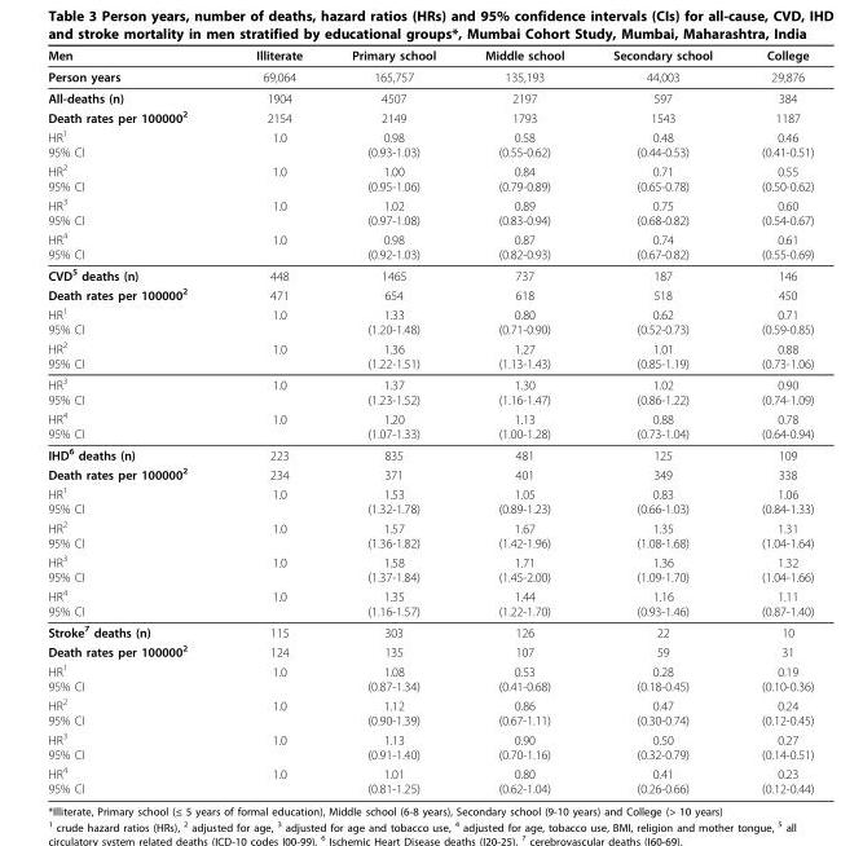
<table><thead><tr><td>Men</td><td>Illiterate</td><td>Primary school</td><td>Middle school</td><td>Secondary school</td><td>College</td></tr></thead><tbody><tr><td>Person years</td><td>69,064</td><td>165,757</td><td>135,193</td><td>44,003</td><td>29,876</td></tr><tr><td>All-deaths (n)</td><td>1904</td><td>4507</td><td>2197</td><td>597</td><td>384</td></tr><tr><td>Death rates per 100000<sup>2</sup></td><td>2154</td><td>2149</td><td>1793</td><td>1543</td><td>1187</td></tr><tr><td>HR<sup>1</sup> 95% CI</td><td>1.0</td><td>0.98 (0.93-1.03)</td><td>0.58 (0.55-0.62)</td><td>0.48 (0.44-0.53)</td><td>0.46 (0.41-0.51)</td></tr><tr><td>HR<sup>2</sup> 95% CI</td><td>1.0</td><td>1.00 (0.95-1.06)</td><td>0.84 (0.79-0.89)</td><td>0.71 (0.65-0.78)</td><td>0.55 (0.50-0.62)</td></tr><tr><td>HR<sup>3</sup> 95% CI</td><td>1.0</td><td>1.02 (0.97-1.08)</td><td>0.89 (0.83-0.94)</td><td>0.75 (0.68-0.82)</td><td>0.60 (0.54-0.67)</td></tr><tr><td>HR<sup>4</sup> 95% CI</td><td>1.0</td><td>0.98 (0.92-1.03)</td><td>0.87 (0.82-0.93)</td><td>0.74 (0.67-0.82)</td><td>0.61 (0.55-0.69)</td></tr><tr><td>CVD<sup>5</sup> deaths (n)</td><td>448</td><td>1465</td><td>737</td><td>187</td><td>146</td></tr><tr><td>Death rates per 100000<sup>2</sup></td><td>471</td><td>654</td><td>618</td><td>518</td><td>450</td></tr><tr><td>HR<sup>1</sup> 95% CI</td><td>1.0</td><td>1.33 (1.20-1.48)</td><td>0.80 (0.71-0.90)</td><td>0.62 (0.52-0.73)</td><td>0.71 (0.59-0.85)</td></tr><tr><td>HR<sup>2</sup> 95% CI</td><td>1.0</td><td>1.36 (1.22-1.51)</td><td>1.27 (1.13-1.43)</td><td>1.01 (0.85-1.19)</td><td>0.88 (0.73-1.06)</td></tr><tr><td>HR<sup>3</sup> 95% CI</td><td>1.0</td><td>1.37 (1.23-1.52)</td><td>1.30 (1.16-1.47)</td><td>1.02 (0.86-1.22)</td><td>0.90 (0.74-1.09)</td></tr><tr><td>HR<sup>4</sup> 95% CI</td><td>1.0</td><td>1.20 (1.07-1.33)</td><td>1.13 (1.00-1.28)</td><td>0.88 (0.73-1.04)</td><td>0.78 (0.64-0.94)</td></tr><tr><td>IHD<sup>6</sup> deaths (n)</td><td>223</td><td>835</td><td>481</td><td>125</td><td>109</td></tr><tr><td>Death rates per 100000<sup>2</sup></td><td>234</td><td>371</td><td>401</td><td>349</td><td>338</td></tr><tr><td>HR<sup>1</sup> 95% CI</td><td>1.0</td><td>1.53 (1.32-1.78)</td><td>1.05 (0.89-1.23)</td><td>0.83 (0.66-1.03)</td><td>1.06 (0.84-1.33)</td></tr><tr><td>HR<sup>2</sup> 95% CI</td><td>1.0</td><td>1.57 (1.36-1.82)</td><td>1.67 (1.42-1.96)</td><td>1.35 (1.08-1.68)</td><td>1.31 (1.04-1.64)</td></tr><tr><td>HR<sup>3</sup> 95% CI</td><td>1.0</td><td>1.58 (1.37-1.84)</td><td>1.71 (1.45-2.00)</td><td>1.36 (1.09-1.70)</td><td>1.32 (1.04-1.66)</td></tr><tr><td>HR<sup>4</sup> 95% CI</td><td>1.0</td><td>1.35 (1.16-1.57)</td><td>1.44 (1.22-1.70)</td><td>1.16 (0.93-1.46)</td><td>1.11 (0.87-1.40)</td></tr><tr><td>Stroke<sup>7</sup> deaths (n)</td><td>115</td><td>303</td><td>126</td><td>22</td><td>10</td></tr><tr><td>Death rates per 100000<sup>2</sup></td><td>124</td><td>135</td><td>107</td><td>59</td><td>31</td></tr><tr><td>HR<sup>1</sup> 95% CI</td><td>1.0</td><td>1.08 (0.87-1.34)</td><td>0.53 (0.41-0.68)</td><td>0.28 (0.18-0.45)</td><td>0.19 (0.10-0.36)</td></tr><tr><td>HR<sup>2</sup> 95% CI</td><td>1.0</td><td>1.12 (0.90-1.39)</td><td>0.86 (0.67-1.11)</td><td>0.47 (0.30-0.74)</td><td>0.24 (0.12-0.45)</td></tr><tr><td>HR<sup>3</sup> 95% CI</td><td>1.0</td><td>1.13 (0.91-1.40)</td><td>0.90 (0.70-1.16)</td><td>0.50 (0.32-0.79)</td><td>0.27 (0.14-0.51)</td></tr><tr><td>HR<sup>4</sup> 95% CI</td><td>1.0</td><td>1.01 (0.81-1.25)</td><td>0.80 (0.62-1.04)</td><td>0.41 (0.26-0.66)</td><td>0.23 (0.12-0.44)</td></tr></tbody></table>